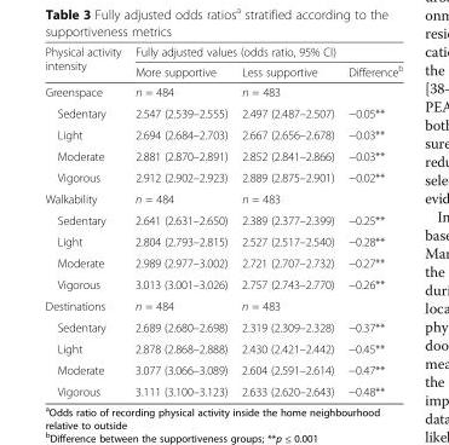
<table><thead><tr><td rowspan="2">Physical activity intensity</td><td colspan="3">Fully adjusted values (odds ratio, 95% CI)</td></tr><tr><td>More supportive</td><td>Less supportive</td><td>Difference<sup>b</sup></td></tr></thead><tbody><tr><td>Greenspace</td><td>n = 484</td><td>n = 483</td><td></td></tr><tr><td>Sedentary</td><td>2.547 (2.539–2.555)</td><td>2.497 (2.487–2.507)</td><td>−0.05**</td></tr><tr><td>Light</td><td>2.694 (2.684–2.703)</td><td>2.667 (2.656–2.678)</td><td>−0.03**</td></tr><tr><td>Moderate</td><td>2.881 (2.870–2.891)</td><td>2.852 (2.841–2.866)</td><td>−0.03**</td></tr><tr><td>Vigorous</td><td>2.912 (2.902–2.923)</td><td>2.889 (2.875–2.901)</td><td>−0.02**</td></tr><tr><td>Walkability</td><td>n = 484</td><td>n = 483</td><td></td></tr><tr><td>Sedentary</td><td>2.641 (2.631–2.650)</td><td>2.389 (2.377–2.399)</td><td>−0.25**</td></tr><tr><td>Light</td><td>2.804 (2.793–2.815)</td><td>2.527 (2.517–2.540)</td><td>−0.28**</td></tr><tr><td>Moderate</td><td>2.989 (2.977–3.002)</td><td>2.721 (2.707–2.732)</td><td>−0.27**</td></tr><tr><td>Vigorous</td><td>3.013 (3.001–3.026)</td><td>2.757 (2.743–2.770)</td><td>−0.26**</td></tr><tr><td>Destinations</td><td>n = 484</td><td>n = 483</td><td></td></tr><tr><td>Sedentary</td><td>2.689 (2.680–2.698)</td><td>2.319 (2.309–2.328)</td><td>−0.37**</td></tr><tr><td>Light</td><td>2.878 (2.868–2.888)</td><td>2.430 (2.421–2.442)</td><td>−0.45**</td></tr><tr><td>Moderate</td><td>3.077 (3.066–3.089)</td><td>2.604 (2.591–2.614)</td><td>−0.47**</td></tr><tr><td>Vigorous</td><td>3.111 (3.100–3.123)</td><td>2.633 (2.620–2.643)</td><td>−0.48**</td></tr></tbody></table>